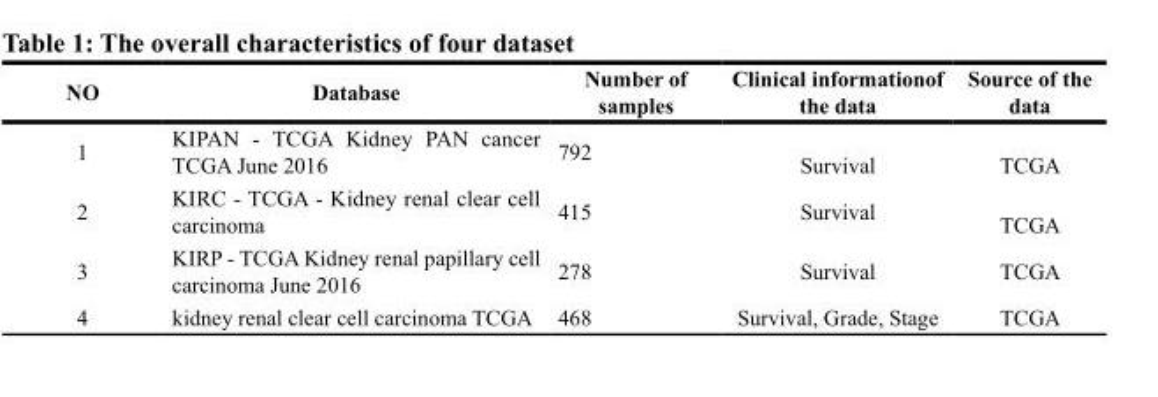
<table><thead><tr><td>NO</td><td>Database</td><td>Number of samples</td><td>Clinical informationof the data</td><td>Source of the data</td></tr></thead><tbody><tr><td>1</td><td>KIPAN - TCGA Kidney PAN cancer TCGA June 2016</td><td>792</td><td>Survival</td><td>TCGA</td></tr><tr><td>2</td><td>KIRC - TCGA - Kidney renal clear cell carcinoma</td><td>415</td><td>Survival</td><td>TCGA</td></tr><tr><td>3</td><td>KIRP - TCGA Kidney renal papillary cell carcinoma June 2016</td><td>278</td><td>Survival</td><td>TCGA</td></tr><tr><td>4</td><td>kidney renal clear cell carcinoma TCGA</td><td>468</td><td>Survival, Grade, Stage</td><td>TCGA</td></tr></tbody></table>